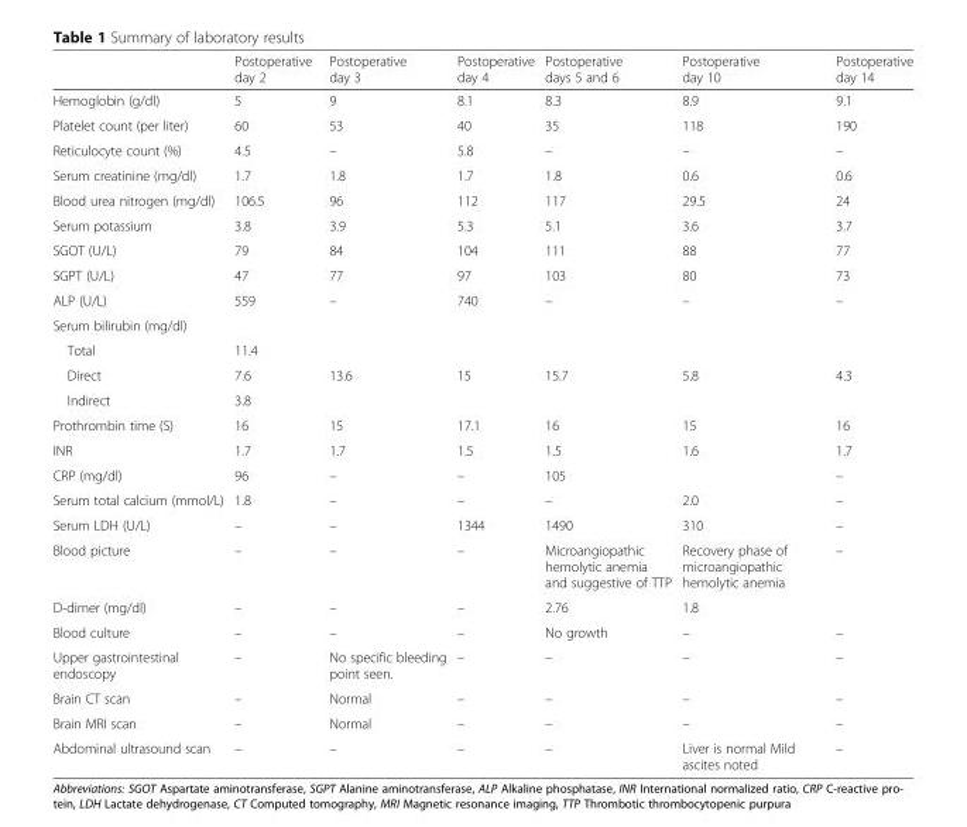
<table><thead><tr><td></td><td>Postoperative day 2</td><td>Postoperative day 3</td><td>Postoperative day 4</td><td>Postoperative days 5 and 6</td><td>Postoperative day 10</td><td>Postoperative day 14</td></tr></thead><tbody><tr><td>Hemoglobin (g/dl)</td><td>5</td><td>9</td><td>8.1</td><td>8.3</td><td>8.9</td><td>9.1</td></tr><tr><td>Platelet count (per liter)</td><td>60</td><td>53</td><td>40</td><td>35</td><td>118</td><td>190</td></tr><tr><td>Reticulocyte count (%)</td><td>4.5</td><td>–</td><td>5.8</td><td>–</td><td>–</td><td>–</td></tr><tr><td>Serum creatinine (mg/dl)</td><td>1.7</td><td>1.8</td><td>1.7</td><td>1.8</td><td>0.6</td><td>0.6</td></tr><tr><td>Blood urea nitrogen (mg/dl)</td><td>106.5</td><td>96</td><td>112</td><td>117</td><td>29.5</td><td>24</td></tr><tr><td>Serum potassium</td><td>3.8</td><td>3.9</td><td>5.3</td><td>5.1</td><td>3.6</td><td>3.7</td></tr><tr><td>SGOT (U/L)</td><td>79</td><td>84</td><td>104</td><td>111</td><td>88</td><td>77</td></tr><tr><td>SGPT (U/L)</td><td>47</td><td>77</td><td>97</td><td>103</td><td>80</td><td>73</td></tr><tr><td>ALP (U/L)</td><td>559</td><td>–</td><td>740</td><td>–</td><td>–</td><td>–</td></tr><tr><td colspan="7">Serum bilirubin (mg/dl)</td></tr><tr><td>Total</td><td>11.4</td><td></td><td></td><td></td><td></td><td></td></tr><tr><td>Direct</td><td>7.6</td><td>13.6</td><td>15</td><td>15.7</td><td>5.8</td><td>4.3</td></tr><tr><td>Indirect</td><td>3.8</td><td></td><td></td><td></td><td></td><td></td></tr><tr><td>Prothrombin time (S)</td><td>16</td><td>15</td><td>17.1</td><td>16</td><td>15</td><td>16</td></tr><tr><td>INR</td><td>1.7</td><td>1.7</td><td>1.5</td><td>1.5</td><td>1.6</td><td>1.7</td></tr><tr><td>CRP (mg/dl)</td><td>96</td><td>–</td><td>–</td><td>105</td><td></td><td>–</td></tr><tr><td>Serum total calcium (mmol/L)</td><td>1.8</td><td>–</td><td>–</td><td>–</td><td>2.0</td><td>–</td></tr><tr><td>Serum LDH (U/L)</td><td>–</td><td>–</td><td>1344</td><td>1490</td><td>310</td><td>–</td></tr><tr><td>Blood picture</td><td>–</td><td>–</td><td>–</td><td>Microangiopathic hemolytic anemia and suggestive of TTP</td><td>Recovery phase of microangiopathic hemolytic anemia</td><td>–</td></tr><tr><td>D-dimer (mg/dl)</td><td>–</td><td>–</td><td>–</td><td>2.76</td><td>1.8</td><td></td></tr><tr><td>Blood culture</td><td>–</td><td>–</td><td>–</td><td>No growth</td><td>–</td><td>–</td></tr><tr><td>Upper gastrointestinal endoscopy</td><td>–</td><td>No specific bleeding point seen.</td><td>–</td><td>–</td><td>–</td><td>–</td></tr><tr><td>Brain CT scan</td><td>–</td><td>Normal</td><td>–</td><td>–</td><td>–</td><td>–</td></tr><tr><td>Brain MRI scan</td><td>–</td><td>Normal</td><td>–</td><td>–</td><td>–</td><td>–</td></tr><tr><td>Abdominal ultrasound scan</td><td>–</td><td>–</td><td>–</td><td>–</td><td>Liver is normal Mild ascites noted</td><td>–</td></tr></tbody></table>